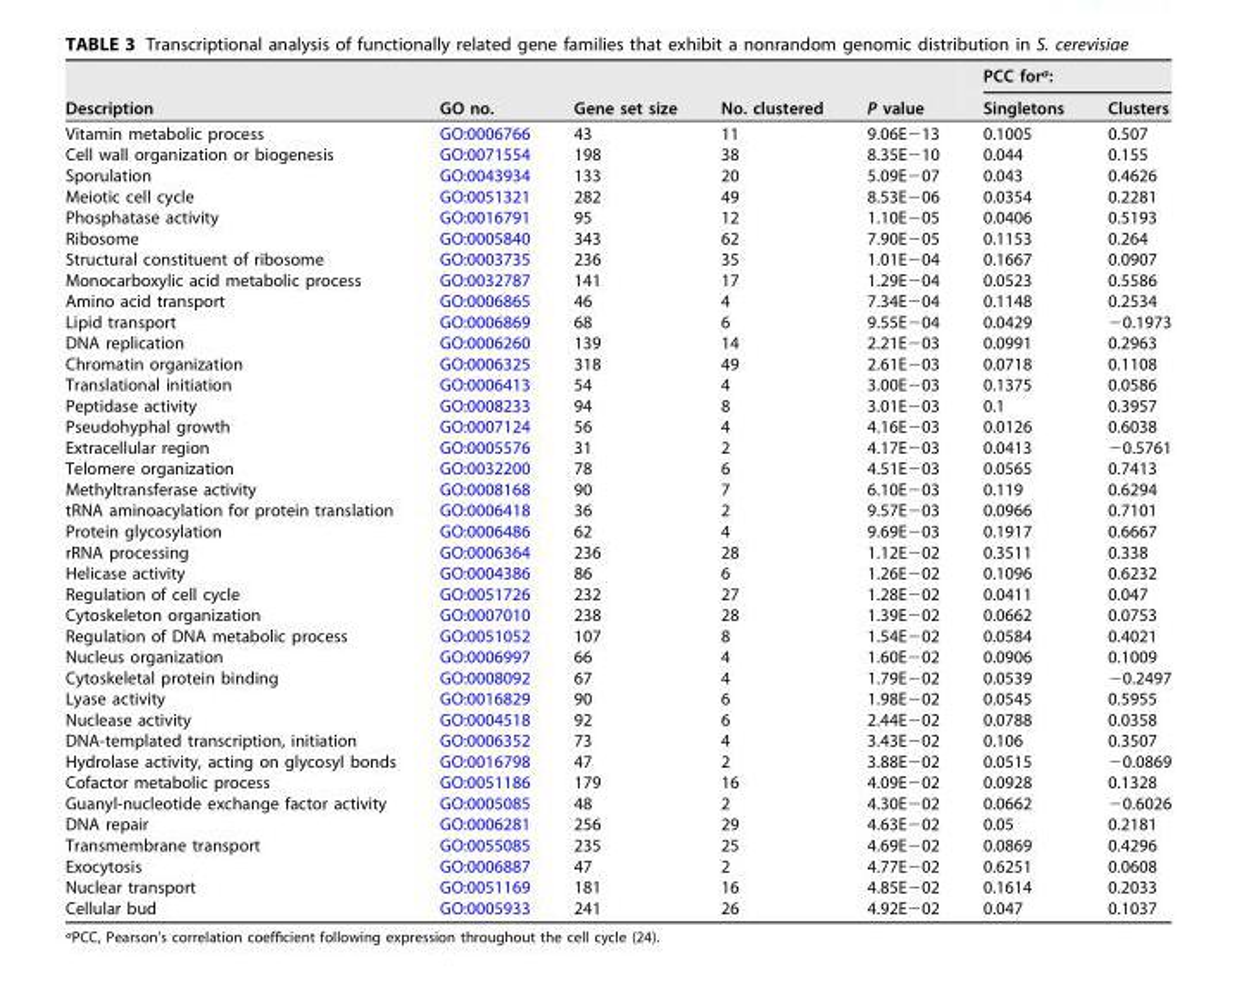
<table><thead><tr><td rowspan="2">Description</td><td rowspan="2">GO no.</td><td rowspan="2">Gene set size</td><td rowspan="2">No. clustered</td><td rowspan="2">P value</td><td colspan="2">PCC for<sup>a</sup>:</td></tr><tr><td>Singletons</td><td>Clusters</td></tr></thead><tbody><tr><td>Vitamin metabolic process</td><td>GO:0006766</td><td>43</td><td>11</td><td>9.06E−13</td><td>0.1005</td><td>0.507</td></tr><tr><td>Cell wall organization or biogenesis</td><td>GO:0071554</td><td>198</td><td>38</td><td>8.35E−10</td><td>0.044</td><td>0.155</td></tr><tr><td>Sporulation</td><td>GO:0043934</td><td>133</td><td>20</td><td>5.09E−07</td><td>0.043</td><td>0.4626</td></tr><tr><td>Meiotic cell cycle</td><td>GO:0051321</td><td>282</td><td>49</td><td>8.53E−06</td><td>0.0354</td><td>0.2281</td></tr><tr><td>Phosphatase activity</td><td>GO:0016791</td><td>95</td><td>12</td><td>1.10E−05</td><td>0.0406</td><td>0.5193</td></tr><tr><td>Ribosome</td><td>GO:0005840</td><td>343</td><td>62</td><td>7.90E−05</td><td>0.1153</td><td>0.264</td></tr><tr><td>Structural constituent of ribosome</td><td>GO:0003735</td><td>236</td><td>35</td><td>1.01E−04</td><td>0.1667</td><td>0.0907</td></tr><tr><td>Monocarboxylic acid metabolic process</td><td>GO:0032787</td><td>141</td><td>17</td><td>1.29E−04</td><td>0.0523</td><td>0.5586</td></tr><tr><td>Amino acid transport</td><td>GO:0006865</td><td>46</td><td>4</td><td>7.34E−04</td><td>0.1148</td><td>0.2534</td></tr><tr><td>Lipid transport</td><td>GO:0006869</td><td>68</td><td>6</td><td>9.55E−04</td><td>0.0429</td><td>−0.1973</td></tr><tr><td>DNA replication</td><td>GO:0006260</td><td>139</td><td>14</td><td>2.21E−03</td><td>0.0991</td><td>0.2963</td></tr><tr><td>Chromatin organization</td><td>GO:0006325</td><td>318</td><td>49</td><td>2.61E−03</td><td>0.0718</td><td>0.1108</td></tr><tr><td>Translational initiation</td><td>GO:0006413</td><td>54</td><td>4</td><td>3.00E−03</td><td>0.1375</td><td>0.0586</td></tr><tr><td>Peptidase activity</td><td>GO:0008233</td><td>94</td><td>8</td><td>3.01E−03</td><td>0.1</td><td>0.3957</td></tr><tr><td>Pseudohyphal growth</td><td>GO:0007124</td><td>56</td><td>4</td><td>4.16E−03</td><td>0.0126</td><td>0.6038</td></tr><tr><td>Extracellular region</td><td>GO:0005576</td><td>31</td><td>2</td><td>4.17E−03</td><td>0.0413</td><td>−0.5761</td></tr><tr><td>Telomere organization</td><td>GO:0032200</td><td>78</td><td>6</td><td>4.51E−03</td><td>0.0565</td><td>0.7413</td></tr><tr><td>Methyltransferase activity</td><td>GO:0008168</td><td>90</td><td>7</td><td>6.10E−03</td><td>0.119</td><td>0.6294</td></tr><tr><td>tRNA aminoacylation for protein translation</td><td>GO:0006418</td><td>36</td><td>2</td><td>9.57E−03</td><td>0.0966</td><td>0.7101</td></tr><tr><td>Protein glycosylation</td><td>GO:0006486</td><td>62</td><td>4</td><td>9.69E−03</td><td>0.1917</td><td>0.6667</td></tr><tr><td>rRNA processing</td><td>GO:0006364</td><td>236</td><td>28</td><td>1.12E−02</td><td>0.3511</td><td>0.338</td></tr><tr><td>Helicase activity</td><td>GO:0004386</td><td>86</td><td>6</td><td>1.26E−02</td><td>0.1096</td><td>0.6232</td></tr><tr><td>Regulation of cell cycle</td><td>GO:0051726</td><td>232</td><td>27</td><td>1.28E−02</td><td>0.0411</td><td>0.047</td></tr><tr><td>Cytoskeleton organization</td><td>GO:0007010</td><td>238</td><td>28</td><td>1.39E−02</td><td>0.0662</td><td>0.0753</td></tr><tr><td>Regulation of DNA metabolic process</td><td>GO:0051052</td><td>107</td><td>8</td><td>1.54E−02</td><td>0.0584</td><td>0.4021</td></tr><tr><td>Nucleus organization</td><td>GO:0006997</td><td>66</td><td>4</td><td>1.60E−02</td><td>0.0906</td><td>0.1009</td></tr><tr><td>Cytoskeletal protein binding</td><td>GO:0008092</td><td>67</td><td>4</td><td>1.79E−02</td><td>0.0539</td><td>−0.2497</td></tr><tr><td>Lyase activity</td><td>GO:0016829</td><td>90</td><td>6</td><td>1.98E−02</td><td>0.0545</td><td>0.5955</td></tr><tr><td>Nuclease activity</td><td>GO:0004518</td><td>92</td><td>6</td><td>2.44E−02</td><td>0.0788</td><td>0.0358</td></tr><tr><td>DNA-templated transcription, initiation</td><td>GO:0006352</td><td>73</td><td>4</td><td>3.43E−02</td><td>0.106</td><td>0.3507</td></tr><tr><td>Hydrolase activity, acting on glycosyl bonds</td><td>GO:0016798</td><td>47</td><td>2</td><td>3.88E−02</td><td>0.0515</td><td>−0.0869</td></tr><tr><td>Cofactor metabolic process</td><td>GO:0051186</td><td>179</td><td>16</td><td>4.09E−02</td><td>0.0928</td><td>0.1328</td></tr><tr><td>Guanyl-nucleotide exchange factor activity</td><td>GO:0005085</td><td>48</td><td>2</td><td>4.30E−02</td><td>0.0662</td><td>−0.6026</td></tr><tr><td>DNA repair</td><td>GO:0006281</td><td>256</td><td>29</td><td>4.63E−02</td><td>0.05</td><td>0.2181</td></tr><tr><td>Transmembrane transport</td><td>GO:0055085</td><td>235</td><td>25</td><td>4.69E−02</td><td>0.0869</td><td>0.4296</td></tr><tr><td>Exocytosis</td><td>GO:0006887</td><td>47</td><td>2</td><td>4.77E−02</td><td>0.6251</td><td>0.0608</td></tr><tr><td>Nuclear transport</td><td>GO:0051169</td><td>181</td><td>16</td><td>4.85E−02</td><td>0.1614</td><td>0.2033</td></tr><tr><td>Cellular bud</td><td>GO:0005933</td><td>241</td><td>26</td><td>4.92E−02</td><td>0.047</td><td>0.1037</td></tr></tbody></table>